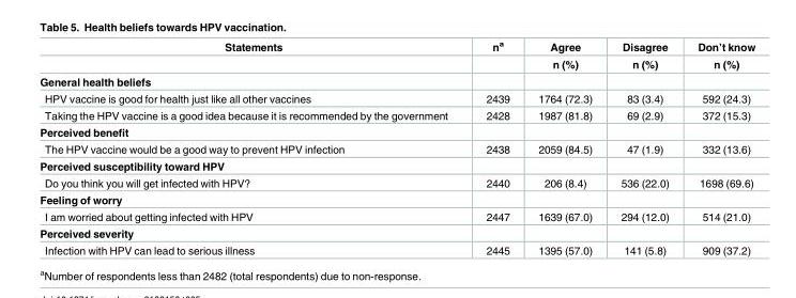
<table><thead><tr><td rowspan="2">Statements</td><td rowspan="2">n<sup>a</sup></td><td rowspan="2">Agree n (%)</td><td rowspan="2">Disagree n (%)</td><td rowspan="2">Don’t know n (%)</td></tr><tr></tr></thead><tbody><tr><td colspan="5">General health beliefs</td></tr><tr><td>HPV vaccine is good for health just like all other vaccines</td><td>2439</td><td>1764 (72.3)</td><td>83 (3.4)</td><td>592 (24.3)</td></tr><tr><td>Taking the HPV vaccine is a good idea because it is recommended by the government</td><td>2428</td><td>1987 (81.8)</td><td>69 (2.9)</td><td>372 (15.3)</td></tr><tr><td colspan="5">Perceived benefit</td></tr><tr><td>The HPV vaccine would be a good way to prevent HPV infection</td><td>2438</td><td>2059 (84.5)</td><td>47 (1.9)</td><td>332 (13.6)</td></tr><tr><td colspan="5">Perceived susceptibility toward HPV</td></tr><tr><td>Do you think you will get infected with HPV?</td><td>2440</td><td>206 (8.4)</td><td>536 (22.0)</td><td>1698 (69.6)</td></tr><tr><td colspan="5">Feeling of worry</td></tr><tr><td>I am worried about getting infected with HPV</td><td>2447</td><td>1639 (67.0)</td><td>294 (12.0)</td><td>514 (21.0)</td></tr><tr><td colspan="5">Perceived severity</td></tr><tr><td>Infection with HPV can lead to serious illness</td><td>2445</td><td>1395 (57.0)</td><td>141 (5.8)</td><td>909 (37.2)</td></tr></tbody></table>